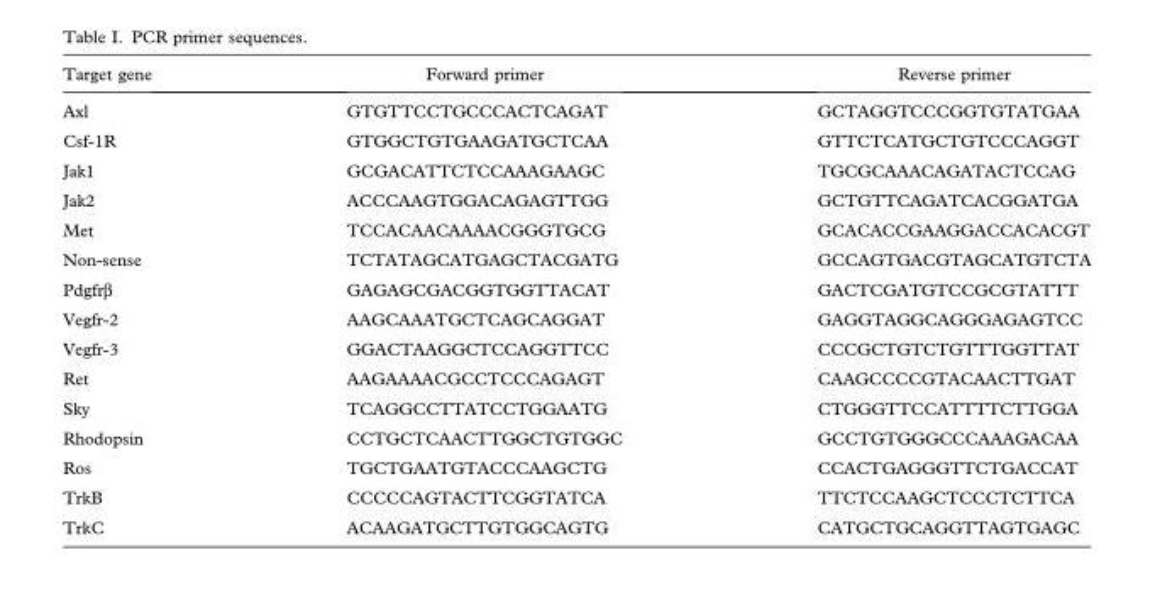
<table><thead><tr><td>Target gene</td><td>Forward primer</td><td>Reverse primer</td></tr></thead><tbody><tr><td>Axl</td><td>GTGTTCCTGCCCACTCAGAT</td><td>GCTAGGTCCCGGTGTATGAA</td></tr><tr><td>Csf-1R</td><td>GTGGCTGTGAAGATGCTCAA</td><td>GTTCTCATGCTGTCCCAGGT</td></tr><tr><td>Jak1</td><td>GCGACATTCTCCAAAGAAGC</td><td>TGCGCAAACAGATACTCCAG</td></tr><tr><td>Jak2</td><td>ACCCAAGTGGACAGAGTTGG</td><td>GCTGTTCAGATCACGGATGA</td></tr><tr><td>Met</td><td>TCCACAACAAAACGGGTGCG</td><td>GCACACCGAAGGACCACACGT</td></tr><tr><td>Non-sense</td><td>TCTATAGCATGAGCTACGATG</td><td>GCCAGTGACGTAGCATGTCTA</td></tr><tr><td>Pdgfrβ</td><td>GAGAGCGACGGTGGTTACAT</td><td>GACTCGATGTCCGCGTATTT</td></tr><tr><td>Vegfr-2</td><td>AAGCAAATGCTCAGCAGGAT</td><td>GAGGTAGGCAGGGAGAGTCC</td></tr><tr><td>Vegfr-3</td><td>GGACTAAGGCTCCAGGTTCC</td><td>CCCGCTGTCTGTTTGGTTAT</td></tr><tr><td>Ret</td><td>AAGAAAACGCCTCCCAGAGT</td><td>CAAGCCCCGTACAACTTGAT</td></tr><tr><td>Sky</td><td>TCAGGCCTTATCCTGGAATG</td><td>CTGGGTTCCATTTTCTTGGA</td></tr><tr><td>Rhodopsin</td><td>CCTGCTCAACTTGGCTGTGGC</td><td>GCCTGTGGGCCCAAAGACAA</td></tr><tr><td>Ros</td><td>TGCTGAATGTACCCAAGCTG</td><td>CCACTGAGGGTTCTGACCAT</td></tr><tr><td>TrkB</td><td>CCCCCAGTACTTCGGTATCA</td><td>TTCTCCAAGCTCCCTCTTCA</td></tr><tr><td>TrkC</td><td>ACAAGATGCTTGTGGCAGTG</td><td>CATGCTGCAGGTTAGTGAGC</td></tr></tbody></table>